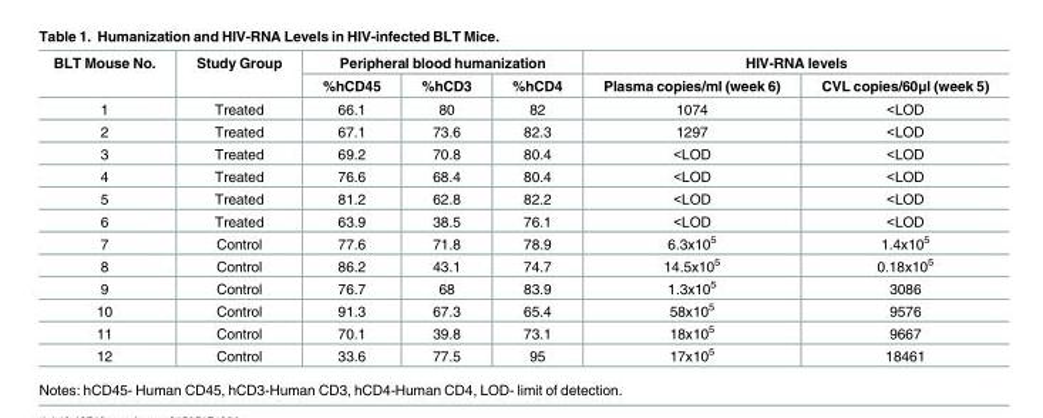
<table><thead><tr><td rowspan="2">BLT Mouse No.</td><td rowspan="2">Study Group</td><td colspan="3">Peripheral blood humanization</td><td colspan="2">HIV-RNA levels</td></tr><tr><td>%hCD45</td><td>%hCD3</td><td>%hCD4</td><td>Plasma copies/ml (week 6)</td><td>CVL copies/60μl (week 5)</td></tr></thead><tbody><tr><td>1</td><td>Treated</td><td>66.1</td><td>80</td><td>82</td><td>1074</td><td>&lt;LOD</td></tr><tr><td>2</td><td>Treated</td><td>67.1</td><td>73.6</td><td>82.3</td><td>1297</td><td>&lt;LOD</td></tr><tr><td>3</td><td>Treated</td><td>69.2</td><td>70.8</td><td>80.4</td><td>&lt;LOD</td><td>&lt;LOD</td></tr><tr><td>4</td><td>Treated</td><td>76.6</td><td>68.4</td><td>80.4</td><td>&lt;LOD</td><td>&lt;LOD</td></tr><tr><td>5</td><td>Treated</td><td>81.2</td><td>62.8</td><td>82.2</td><td>&lt;LOD</td><td>&lt;LOD</td></tr><tr><td>6</td><td>Treated</td><td>63.9</td><td>38.5</td><td>76.1</td><td>&lt;LOD</td><td>&lt;LOD</td></tr><tr><td>7</td><td>Control</td><td>77.6</td><td>71.8</td><td>78.9</td><td>6.3x10<sup>5</sup></td><td>1.4x10<sup>5</sup></td></tr><tr><td>8</td><td>Control</td><td>86.2</td><td>43.1</td><td>74.7</td><td>14.5x10<sup>5</sup></td><td>0.18x10<sup>5</sup></td></tr><tr><td>9</td><td>Control</td><td>76.7</td><td>68</td><td>83.9</td><td>1.3x10<sup>5</sup></td><td>3086</td></tr><tr><td>10</td><td>Control</td><td>91.3</td><td>67.3</td><td>65.4</td><td>58x10<sup>5</sup></td><td>9576</td></tr><tr><td>11</td><td>Control</td><td>70.1</td><td>39.8</td><td>73.1</td><td>18x10<sup>5</sup></td><td>9667</td></tr><tr><td>12</td><td>Control</td><td>33.6</td><td>77.5</td><td>95</td><td>17x10<sup>5</sup></td><td>18461</td></tr></tbody></table>